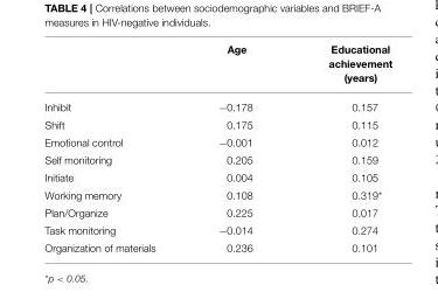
<table><thead><tr><td></td><td>Age</td><td>Educational achievement (years)</td></tr></thead><tbody><tr><td>Inhibit</td><td>−0.178</td><td>0.157</td></tr><tr><td>Shift</td><td>0.175</td><td>0.115</td></tr><tr><td>Emotional control</td><td>−0.001</td><td>0.012</td></tr><tr><td>Self monitoring</td><td>0.205</td><td>0.159</td></tr><tr><td>Initiate</td><td>0.004</td><td>0.105</td></tr><tr><td>Working memory</td><td>0.108</td><td>0.319*</td></tr><tr><td>Plan/Organize</td><td>0.225</td><td>0.017</td></tr><tr><td>Task monitoring</td><td>−0.014</td><td>0.274</td></tr><tr><td>Organization of materials</td><td>0.236</td><td>0.101</td></tr></tbody></table>